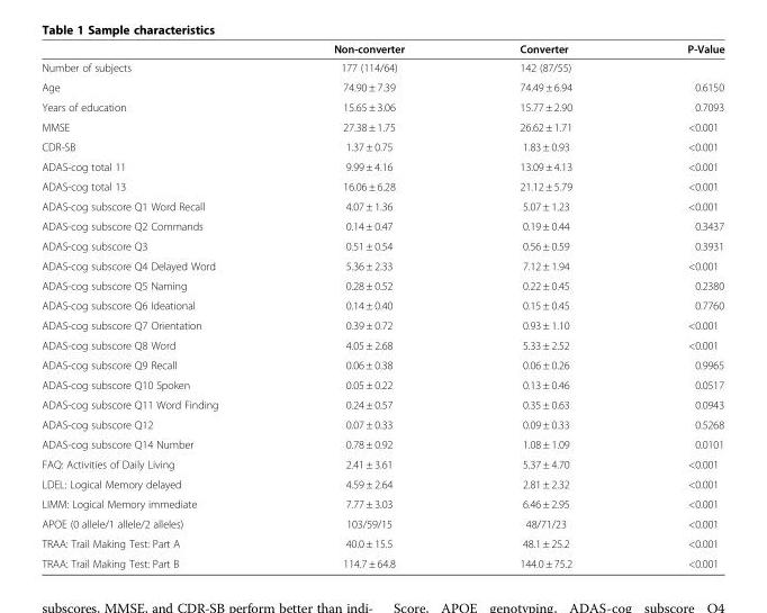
<table><thead><tr><td></td><td>Non-converter</td><td>Converter</td><td>P-Value</td></tr></thead><tbody><tr><td>Number of subjects</td><td>177 (114/64)</td><td>142 (87/55)</td><td></td></tr><tr><td>Age</td><td>74.90 ± 7.39</td><td>74.49 ± 6.94</td><td>0.6150</td></tr><tr><td>Years of education</td><td>15.65 ± 3.06</td><td>15.77 ± 2.90</td><td>0.7093</td></tr><tr><td>MMSE</td><td>27.38 ± 1.75</td><td>26.62 ± 1.71</td><td>&lt;0.001</td></tr><tr><td>CDR-SB</td><td>1.37 ± 0.75</td><td>1.83 ± 0.93</td><td>&lt;0.001</td></tr><tr><td>ADAS-cog total 11</td><td>9.99 ± 4.16</td><td>13.09 ± 4.13</td><td>&lt;0.001</td></tr><tr><td>ADAS-cog total 13</td><td>16.06 ± 6.28</td><td>21.12 ± 5.79</td><td>&lt;0.001</td></tr><tr><td>ADAS-cog subscore Q1 Word Recall</td><td>4.07 ± 1.36</td><td>5.07 ± 1.23</td><td>&lt;0.001</td></tr><tr><td>ADAS-cog subscore Q2 Commands</td><td>0.14 ± 0.47</td><td>0.19 ± 0.44</td><td>0.3437</td></tr><tr><td>ADAS-cog subscore Q3</td><td>0.51 ± 0.54</td><td>0.56 ± 0.59</td><td>0.3931</td></tr><tr><td>ADAS-cog subscore Q4 Delayed Word</td><td>5.36 ± 2.33</td><td>7.12 ± 1.94</td><td>&lt;0.001</td></tr><tr><td>ADAS-cog subscore Q5 Naming</td><td>0.28 ± 0.52</td><td>0.22 ± 0.45</td><td>0.2380</td></tr><tr><td>ADAS-cog subscore Q6 Ideational</td><td>0.14 ± 0.40</td><td>0.15 ± 0.45</td><td>0.7760</td></tr><tr><td>ADAS-cog subscore Q7 Orientation</td><td>0.39 ± 0.72</td><td>0.93 ± 1.10</td><td>&lt;0.001</td></tr><tr><td>ADAS-cog subscore Q8 Word</td><td>4.05 ± 2.68</td><td>5.33 ± 2.52</td><td>&lt;0.001</td></tr><tr><td>ADAS-cog subscore Q9 Recall</td><td>0.06 ± 0.38</td><td>0.06 ± 0.26</td><td>0.9965</td></tr><tr><td>ADAS-cog subscore Q10 Spoken</td><td>0.05 ± 0.22</td><td>0.13 ± 0.46</td><td>0.0517</td></tr><tr><td>ADAS-cog subscore Q11 Word Finding</td><td>0.24 ± 0.57</td><td>0.35 ± 0.63</td><td>0.0943</td></tr><tr><td>ADAS-cog subscore Q12</td><td>0.07 ± 0.33</td><td>0.09 ± 0.33</td><td>0.5268</td></tr><tr><td>ADAS-cog subscore Q14 Number</td><td>0.78 ± 0.92</td><td>1.08 ± 1.09</td><td>0.0101</td></tr><tr><td>FAQ: Activities of Daily Living</td><td>2.41 ± 3.61</td><td>5.37 ± 4.70</td><td>&lt;0.001</td></tr><tr><td>LDEL: Logical Memory delayed</td><td>4.59 ± 2.64</td><td>2.81 ± 2.32</td><td>&lt;0.001</td></tr><tr><td>LIMM: Logical Memory immediate</td><td>7.77 ± 3.03</td><td>6.46 ± 2.95</td><td>&lt;0.001</td></tr><tr><td>APOE (0 allele/1 allele/2 alleles)</td><td>103/59/15</td><td>48/71/23</td><td>&lt;0.001</td></tr><tr><td>TRAA: Trail Making Test: Part A</td><td>40.0 ± 15.5</td><td>48.1 ± 25.2</td><td>&lt;0.001</td></tr><tr><td>TRAA: Trail Making Test: Part B</td><td>114.7 ± 64.8</td><td>144.0 ± 75.2</td><td>&lt;0.001</td></tr></tbody></table>